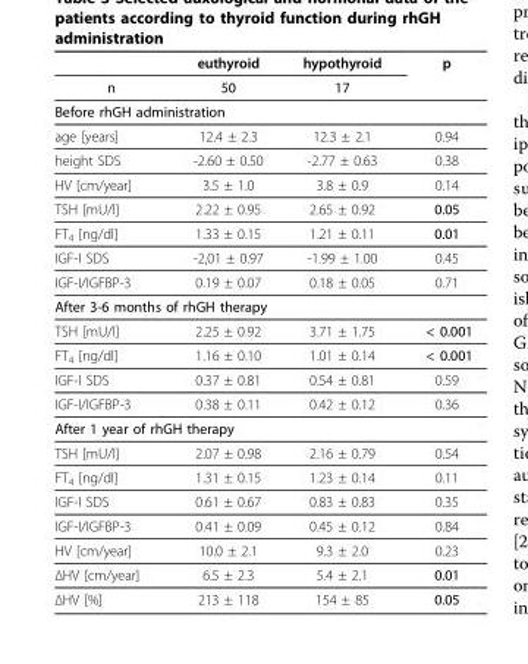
<table><thead><tr><td rowspan="2">n</td><td rowspan="2">euthyroid 50</td><td rowspan="2">hypothyroid 17</td><td rowspan="2">p</td></tr><tr></tr></thead><tbody><tr><td colspan="4">Before rhGH administration</td></tr><tr><td>age [years]</td><td>12.4 ± 2.3</td><td>12.3 ± 2.1</td><td>0.94</td></tr><tr><td>height SDS</td><td>-2.60 ± 0.50</td><td>-2.77 ± 0.63</td><td>0.38</td></tr><tr><td>HV [cm/year]</td><td>3.5 ± 1.0</td><td>3.8 ± 0.9</td><td>0.14</td></tr><tr><td>TSH [mU/l]</td><td>2.22 ± 0.95</td><td>2.65 ± 0.92</td><td>0.05</td></tr><tr><td>FT<sub>4</sub> [ng/dl]</td><td>1.33 ± 0.15</td><td>1.21 ± 0.11</td><td>0.01</td></tr><tr><td>IGF-I SDS</td><td>-2,01 ± 0.97</td><td>-1.99 ± 1.00</td><td>0.45</td></tr><tr><td>IGF-I/IGFBP-3</td><td>0.19 ± 0.07</td><td>0.18 ± 0.05</td><td>0.71</td></tr><tr><td colspan="4">After 3-6 months of rhGH therapy</td></tr><tr><td>TSH [mU/l]</td><td>2.25 ± 0.92</td><td>3.71 ± 1.75</td><td>&lt; 0.001</td></tr><tr><td>FT<sub>4</sub> [ng/dl]</td><td>1.16 ± 0.10</td><td>1.01 ± 0.14</td><td>&lt; 0.001</td></tr><tr><td>IGF-I SDS</td><td>0.37 ± 0.81</td><td>0.54 ± 0.81</td><td>0.59</td></tr><tr><td>IGF-I/IGFBP-3</td><td>0.38 ± 0.11</td><td>0.42 ± 0.12</td><td>0.36</td></tr><tr><td colspan="4">After 1 year of rhGH therapy</td></tr><tr><td>TSH [mU/l]</td><td>2.07 ± 0.98</td><td>2.16 ± 0.79</td><td>0.54</td></tr><tr><td>FT<sub>4</sub> [ng/dl]</td><td>1.31 ± 0.15</td><td>1.23 ± 0.14</td><td>0.11</td></tr><tr><td>IGF-I SDS</td><td>0.61 ± 0.67</td><td>0.83 ± 0.83</td><td>0.35</td></tr><tr><td>IGF-I/IGFBP-3</td><td>0.41 ± 0.09</td><td>0.45 ± 0.12</td><td>0.84</td></tr><tr><td>HV [cm/year]</td><td>10.0 ± 2.1</td><td>9.3 ± 2.0</td><td>0.23</td></tr><tr><td>ΔHV [cm/year]</td><td>6.5 ± 2.3</td><td>5.4 ± 2.1</td><td>0.01</td></tr><tr><td>ΔHV [%]</td><td>213 ± 118</td><td>154 ± 85</td><td>0.05</td></tr></tbody></table>